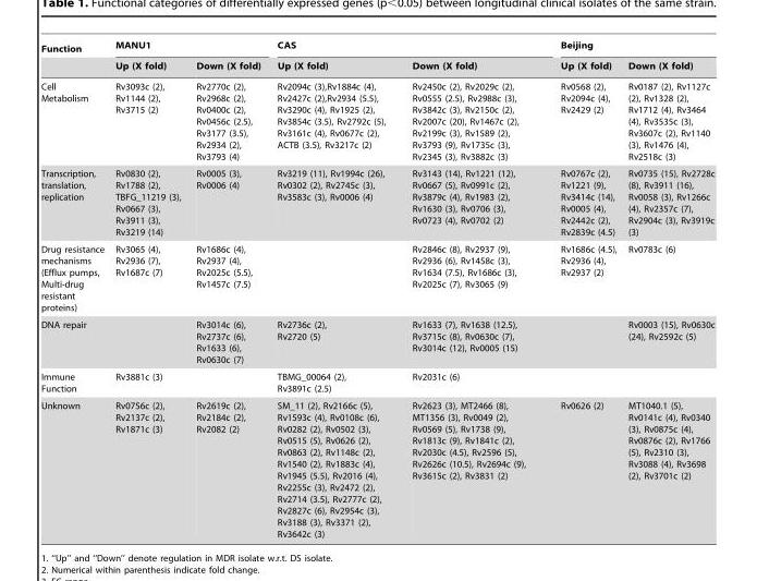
<table><thead><tr><td rowspan="2">Function</td><td colspan="2">MANU1</td><td colspan="2">CAS</td><td colspan="2">Beijing</td></tr><tr><td>Up (X fold)</td><td>Down (X fold)</td><td>Up (X fold)</td><td>Down (X fold)</td><td>Up (X fold)</td><td>Down (X fold)</td></tr></thead><tbody><tr><td>Cell Metabolism</td><td>Rv3093c (2), Rv1144 (2), Rv3715 (2)</td><td>Rv2770c (2), Rv2968c (2), Rv0400c (2), Rv0456c (2.5), Rv3177 (3.5), Rv2934 (2), Rv3793 (4)</td><td>Rv2094c (3),Rv1884c (4), Rv2427c (2),Rv2934 (5.5), Rv3290c (4), Rv1925 (2), Rv3854c (3.5), Rv2792c (5), Rv3161c (4), Rv0677c (2), ACTB (3.5), Rv3217c (2)</td><td>Rv2450c (2), Rv2029c (2), Rv0555 (2.5), Rv2988c (3), Rv3842c (3), Rv2150c (2), Rv2007c (20), Rv1467c (2), Rv2199c (3), Rv1589 (2), Rv3793 (9), Rv1735c (3), Rv2345 (3), Rv3882c (3)</td><td>Rv0568 (2), Rv2094c (4), Rv2429 (2)</td><td>Rv0187 (2), Rv1127c (2), Rv1328 (2), Rv1712 (4), Rv3464 (4), Rv3535c (3), Rv3607c (2), Rv1140 (3), Rv1476 (4), Rv2518c (3)</td></tr><tr><td>Transcription, translation, replication</td><td>Rv0830 (2), Rv1788 (2), TBFG_11219 (3), Rv0667 (3), Rv3911 (3), Rv3219 (14)</td><td>Rv0005 (3), Rv0006 (4)</td><td>Rv3219 (11), Rv1994c (26), Rv0302 (2), Rv2745c (3), Rv3583c (3), Rv0006 (4)</td><td>Rv3143 (14), Rv1221 (12), Rv0667 (5), Rv0991c (2), Rv3879c (4), Rv1983 (2), Rv1630 (3), Rv0706 (3), Rv0723 (4), Rv0702 (2)</td><td>Rv0767c (2), Rv1221 (9), Rv3414c (14), Rv0005 (4), Rv2442c (2), Rv2839c (4.5)</td><td>Rv0735 (15), Rv2728c (8), Rv3911 (16), Rv0058 (3), Rv1266c (4), Rv2357c (7), Rv2904c (3), Rv3919c (3)</td></tr><tr><td>Drug resistance mechanisms (Efflux pumps, Multi-drug resistant proteins)</td><td>Rv3065 (4), Rv2936 (7), Rv1687c (7)</td><td>Rv1686c (4), Rv2937 (4), Rv2025c (5.5), Rv1457c (7.5)</td><td></td><td>Rv2846c (8), Rv2937 (9), Rv2936 (6), Rv1458c (3), Rv1634 (7.5), Rv1686c (3), Rv2025c (7), Rv3065 (9)</td><td>Rv1686c (4.5), Rv2936 (4), Rv2937 (2)</td><td>Rv0783c (6)</td></tr><tr><td>DNA repair</td><td></td><td>Rv3014c (6), Rv2737c (6), Rv1633 (6), Rv0630c (7)</td><td>Rv2736c (2), Rv2720 (5)</td><td>Rv1633 (7), Rv1638 (12.5), Rv3715c (8), Rv0630c (7), Rv3014c (12), Rv0005 (15)</td><td></td><td>Rv0003 (15), Rv0630c (24), Rv2592c (5)</td></tr><tr><td>Immune Function</td><td>Rv3881c (3)</td><td></td><td>TBMG_00064 (2), Rv3891c (2.5)</td><td>Rv2031c (6)</td><td></td><td></td></tr><tr><td>Unknown</td><td>Rv0756c (2), Rv2137c (2), Rv1871c (3)</td><td>Rv2619c (2), Rv2184c (2), Rv2082 (2)</td><td>SM_11 (2), Rv2166c (5), Rv1593c (4), Rv0108c (6), Rv0282 (2), Rv0502 (3), Rv0515 (5), Rv0626 (2), Rv0863 (2), Rv1148c (2), Rv1540 (2), Rv1883c (4), Rv1945 (5.5), Rv2016 (4), Rv2255c (3), Rv2472 (2), Rv2714 (3.5), Rv2777c (2), Rv2827c (6), Rv2954c (3), Rv3188 (3), Rv3371 (2), Rv3642c (3)</td><td>Rv2623 (3), MT2466 (8), MT1356 (3), Rv0049 (2), Rv0569 (5), Rv1738 (9), Rv1813c (9), Rv1841c (2), Rv2030c (4.5), Rv2596 (5), Rv2626c (10.5), Rv2694c (9), Rv3615c (2), Rv3831 (2)</td><td>Rv0626 (2)</td><td>MT1040.1 (5), Rv0141c (4), Rv0340 (3), Rv0875c (4), Rv0876c (2), Rv1766 (5), Rv2310 (3), Rv3088 (4), Rv3698 (2), Rv3701c (2)</td></tr></tbody></table>